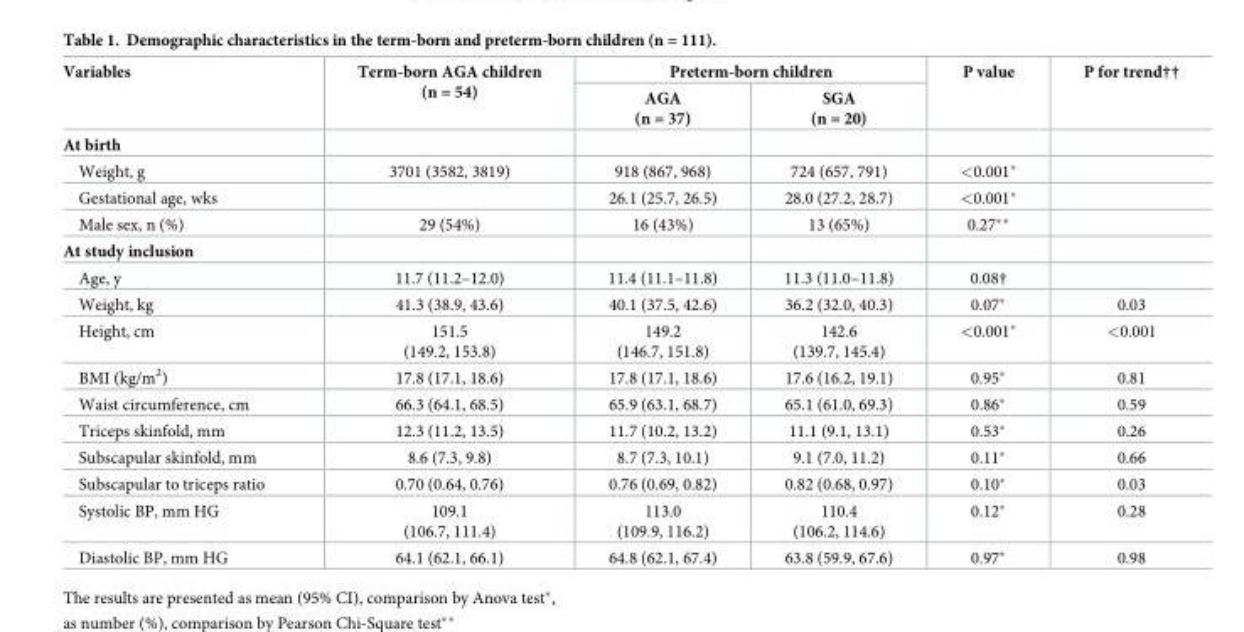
<table><thead><tr><td rowspan="2">Variables</td><td rowspan="2">Term-born AGA children (n = 54)</td><td colspan="2">Preterm-born children</td><td rowspan="2">P value</td><td rowspan="2">P for trend††</td></tr><tr><td>AGA (n = 37)</td><td>SGA (n = 20)</td></tr></thead><tbody><tr><td colspan="6">At birth</td></tr><tr><td>Weight, g</td><td>3701 (3582, 3819)</td><td>918 (867, 968)</td><td>724 (657, 791)</td><td>&lt;0.001*</td><td></td></tr><tr><td>Gestational age, wks</td><td></td><td>26.1 (25.7, 26.5)</td><td>28.0 (27.2, 28.7)</td><td>&lt;0.001*</td><td></td></tr><tr><td>Male sex, n (%)</td><td>29 (54%)</td><td>16 (43%)</td><td>13 (65%)</td><td>0.27**</td><td></td></tr><tr><td colspan="6">At study inclusion</td></tr><tr><td>Age, y</td><td>11.7 (11.2–12.0)</td><td>11.4 (11.1–11.8)</td><td>11.3 (11.0–11.8)</td><td>0.08†</td><td></td></tr><tr><td>Weight, kg</td><td>41.3 (38.9, 43.6)</td><td>40.1 (37.5, 42.6)</td><td>36.2 (32.0, 40.3)</td><td>0.07*</td><td>0.03</td></tr><tr><td>Height, cm</td><td>151.5 (149.2, 153.8)</td><td>149.2 (146.7, 151.8)</td><td>142.6 (139.7, 145.4)</td><td>&lt;0.001*</td><td>&lt;0.001</td></tr><tr><td>BMI (kg/m<sup>2</sup>)</td><td>17.8 (17.1, 18.6)</td><td>17.8 (17.1, 18.6)</td><td>17.6 (16.2, 19.1)</td><td>0.95*</td><td>0.81</td></tr><tr><td>Waist circumference, cm</td><td>66.3 (64.1, 68.5)</td><td>65.9 (63.1, 68.7)</td><td>65.1 (61.0, 69.3)</td><td>0.86*</td><td>0.59</td></tr><tr><td>Triceps skinfold, mm</td><td>12.3 (11.2, 13.5)</td><td>11.7 (10.2, 13.2)</td><td>11.1 (9.1, 13.1)</td><td>0.53*</td><td>0.26</td></tr><tr><td>Subscapular skinfold, mm</td><td>8.6 (7.3, 9.8)</td><td>8.7 (7.3, 10.1)</td><td>9.1 (7.0, 11.2)</td><td>0.11*</td><td>0.66</td></tr><tr><td>Subscapular to triceps ratio</td><td>0.70 (0.64, 0.76)</td><td>0.76 (0.69, 0.82)</td><td>0.82 (0.68, 0.97)</td><td>0.10*</td><td>0.03</td></tr><tr><td>Systolic BP, mm HG</td><td>109.1 (106.7, 111.4)</td><td>113.0 (109.9, 116.2)</td><td>110.4 (106.2, 114.6)</td><td>0.12*</td><td>0.28</td></tr><tr><td>Diastolic BP, mm HG</td><td>64.1 (62.1, 66.1)</td><td>64.8 (62.1, 67.4)</td><td>63.8 (59.9, 67.6)</td><td>0.97*</td><td>0.98</td></tr></tbody></table>